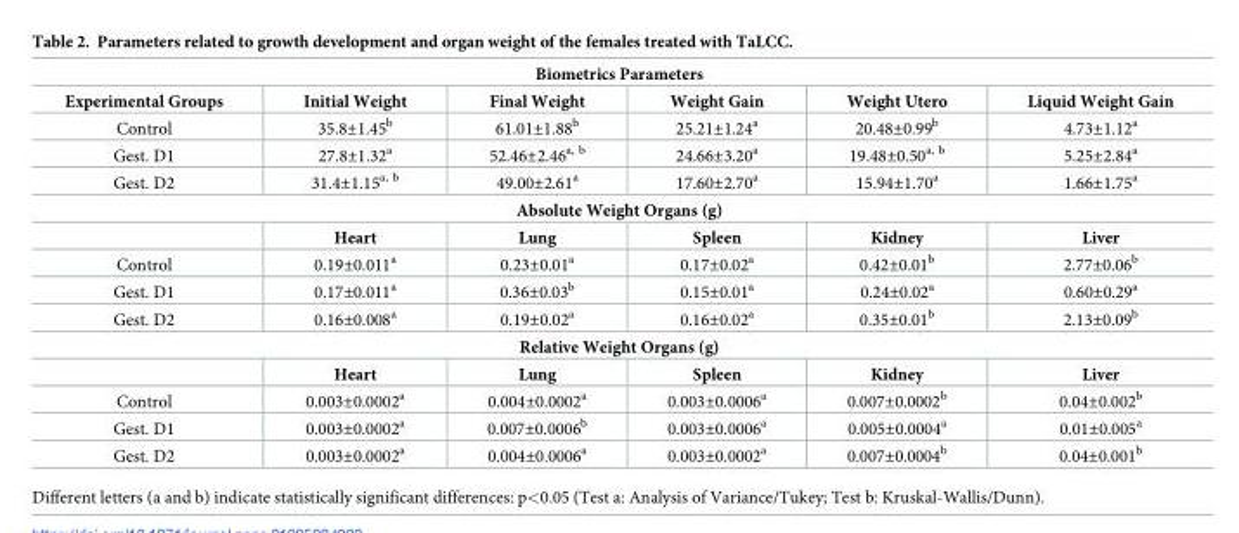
<table><thead><tr><td colspan="6">Biometrics Parameters</td></tr><tr><td>Experimental Groups</td><td>Initial Weight</td><td>Final Weight</td><td>Weight Gain</td><td>Weight Utero</td><td>Liquid Weight Gain</td></tr></thead><tbody><tr><td>Control</td><td>35.8±1.45<sup>b</sup></td><td>61.01±1.88<sup>b</sup></td><td>25.21±1.24<sup>a</sup></td><td>20.48±0.99<sup>b</sup></td><td>4.73±1.12<sup>a</sup></td></tr><tr><td>Gest. D1</td><td>27.8±1.32<sup>a</sup></td><td>52.46±2.46<sup>a, b</sup></td><td>24.66±3.20<sup>a</sup></td><td>19.48±0.50<sup>a, b</sup></td><td>5.25±2.84<sup>a</sup></td></tr><tr><td>Gest. D2</td><td>31.4±1.15<sup>a, b</sup></td><td>49.00±2.61<sup>a</sup></td><td>17.60±2.70<sup>a</sup></td><td>15.94±1.70<sup>a</sup></td><td>1.66±1.75<sup>a</sup></td></tr><tr><td colspan="6">Absolute Weight Organs (g)</td></tr><tr><td></td><td>Heart</td><td>Lung</td><td>Spleen</td><td>Kidney</td><td>Liver</td></tr><tr><td>Control</td><td>0.19±0.011<sup>a</sup></td><td>0.23±0.01<sup>a</sup></td><td>0.17±0.02<sup>a</sup></td><td>0.42±0.01<sup>b</sup></td><td>2.77±0.06<sup>b</sup></td></tr><tr><td>Gest. D1</td><td>0.17±0.011<sup>a</sup></td><td>0.36±0.03<sup>b</sup></td><td>0.15±0.01<sup>a</sup></td><td>0.24±0.02<sup>a</sup></td><td>0.60±0.29<sup>a</sup></td></tr><tr><td>Gest. D2</td><td>0.16±0.008<sup>a</sup></td><td>0.19±0.02<sup>a</sup></td><td>0.16±0.02<sup>a</sup></td><td>0.35±0.01<sup>b</sup></td><td>2.13±0.09<sup>b</sup></td></tr><tr><td colspan="6">Relative Weight Organs (g)</td></tr><tr><td></td><td>Heart</td><td>Lung</td><td>Spleen</td><td>Kidney</td><td>Liver</td></tr><tr><td>Control</td><td>0.003±0.0002<sup>a</sup></td><td>0.004±0.0002<sup>a</sup></td><td>0.003±0.0006<sup>a</sup></td><td>0.007±0.0002<sup>b</sup></td><td>0.04±0.002<sup>b</sup></td></tr><tr><td>Gest. D1</td><td>0.003±0.0002<sup>a</sup></td><td>0.007±0.0006<sup>b</sup></td><td>0.003±0.0006<sup>a</sup></td><td>0.005±0.0004<sup>a</sup></td><td>0.01±0.005<sup>a</sup></td></tr><tr><td>Gest. D2</td><td>0.003±0.0002<sup>a</sup></td><td>0.004±0.0006<sup>a</sup></td><td>0.003±0.0002<sup>a</sup></td><td>0.007±0.0004<sup>b</sup></td><td>0.04±0.001<sup>b</sup></td></tr></tbody></table>